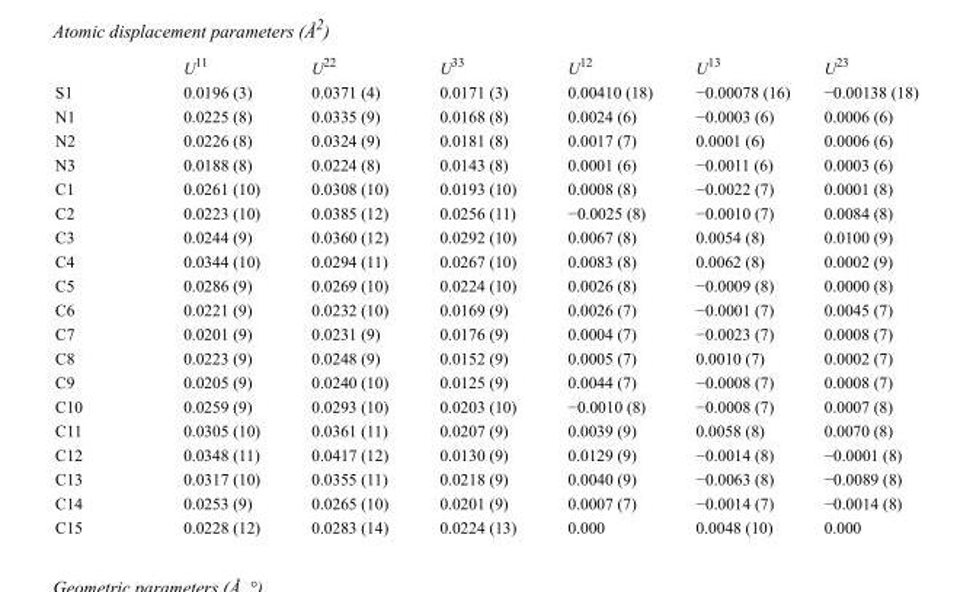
<table><thead><tr><td></td><td>U<sup>11</sup></td><td>U<sup>22</sup></td><td>U<sup>33</sup></td><td>U<sup>12</sup></td><td>U<sup>13</sup></td><td>U<sup>23</sup></td></tr></thead><tbody><tr><td>S1</td><td>0.0196 (3)</td><td>0.0371 (4)</td><td>0.0171 (3)</td><td>0.00410 (18)</td><td>−0.00078 (16)</td><td>−0.00138 (18)</td></tr><tr><td>N1</td><td>0.0225 (8)</td><td>0.0335 (9)</td><td>0.0168 (8)</td><td>0.0024 (6)</td><td>−0.0003 (6)</td><td>0.0006 (6)</td></tr><tr><td>N2</td><td>0.0226 (8)</td><td>0.0324 (9)</td><td>0.0181 (8)</td><td>0.0017 (7)</td><td>0.0001 (6)</td><td>0.0006 (6)</td></tr><tr><td>N3</td><td>0.0188 (8)</td><td>0.0224 (8)</td><td>0.0143 (8)</td><td>0.0001 (6)</td><td>−0.0011 (6)</td><td>0.0003 (6)</td></tr><tr><td>C1</td><td>0.0261 (10)</td><td>0.0308 (10)</td><td>0.0193 (10)</td><td>0.0008 (8)</td><td>−0.0022 (7)</td><td>0.0001 (8)</td></tr><tr><td>C2</td><td>0.0223 (10)</td><td>0.0385 (12)</td><td>0.0256 (11)</td><td>−0.0025 (8)</td><td>−0.0010 (7)</td><td>0.0084 (8)</td></tr><tr><td>C3</td><td>0.0244 (9)</td><td>0.0360 (12)</td><td>0.0292 (10)</td><td>0.0067 (8)</td><td>0.0054 (8)</td><td>0.0100 (9)</td></tr><tr><td>C4</td><td>0.0344 (10)</td><td>0.0294 (11)</td><td>0.0267 (10)</td><td>0.0083 (8)</td><td>0.0062 (8)</td><td>0.0002 (9)</td></tr><tr><td>C5</td><td>0.0286 (9)</td><td>0.0269 (10)</td><td>0.0224 (10)</td><td>0.0026 (8)</td><td>−0.0009 (8)</td><td>0.0000 (8)</td></tr><tr><td>C6</td><td>0.0221 (9)</td><td>0.0232 (10)</td><td>0.0169 (9)</td><td>0.0026 (7)</td><td>−0.0001 (7)</td><td>0.0045 (7)</td></tr><tr><td>C7</td><td>0.0201 (9)</td><td>0.0231 (9)</td><td>0.0176 (9)</td><td>0.0004 (7)</td><td>−0.0023 (7)</td><td>0.0008 (7)</td></tr><tr><td>C8</td><td>0.0223 (9)</td><td>0.0248 (9)</td><td>0.0152 (9)</td><td>0.0005 (7)</td><td>0.0010 (7)</td><td>0.0002 (7)</td></tr><tr><td>C9</td><td>0.0205 (9)</td><td>0.0240 (10)</td><td>0.0125 (9)</td><td>0.0044 (7)</td><td>−0.0008 (7)</td><td>0.0008 (7)</td></tr><tr><td>C10</td><td>0.0259 (9)</td><td>0.0293 (10)</td><td>0.0203 (10)</td><td>−0.0010 (8)</td><td>−0.0008 (7)</td><td>0.0007 (8)</td></tr><tr><td>C11</td><td>0.0305 (10)</td><td>0.0361 (11)</td><td>0.0207 (9)</td><td>0.0039 (9)</td><td>0.0058 (8)</td><td>0.0070 (8)</td></tr><tr><td>C12</td><td>0.0348 (11)</td><td>0.0417 (12)</td><td>0.0130 (9)</td><td>0.0129 (9)</td><td>−0.0014 (8)</td><td>−0.0001 (8)</td></tr><tr><td>C13</td><td>0.0317 (10)</td><td>0.0355 (11)</td><td>0.0218 (9)</td><td>0.0040 (9)</td><td>−0.0063 (8)</td><td>−0.0089 (8)</td></tr><tr><td>C14</td><td>0.0253 (9)</td><td>0.0265 (10)</td><td>0.0201 (9)</td><td>0.0007 (7)</td><td>−0.0014 (7)</td><td>−0.0014 (8)</td></tr><tr><td>C15</td><td>0.0228 (12)</td><td>0.0283 (14)</td><td>0.0224 (13)</td><td>0.000</td><td>0.0048 (10)</td><td>0.000</td></tr></tbody></table>